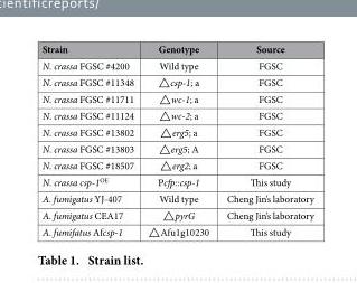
<table><thead><tr><td>Strain</td><td>Genotype</td><td>Source</td></tr></thead><tbody><tr><td>N. crassa FGSC #4200</td><td>Wild type</td><td>FGSC</td></tr><tr><td>N. crassa FGSC #11348</td><td>△ csp-1; a</td><td>FGSC</td></tr><tr><td>N. crassa FGSC #11711</td><td>△ wc-1; a</td><td>FGSC</td></tr><tr><td>N. crassa FGSC #11124</td><td>△ wc-2; a</td><td>FGSC</td></tr><tr><td>N. crassa FGSC #13802</td><td>△ erg5; a</td><td>FGSC</td></tr><tr><td>N. crassa FGSC #13803</td><td>△ erg5; A</td><td>FGSC</td></tr><tr><td>N. crassa FGSC #18507</td><td>△ erg2; a</td><td>FGSC</td></tr><tr><td>N. crassa csp-1<sup>OE</sup></td><td>Pcfp::csp-1</td><td>This study</td></tr><tr><td>A. fumigatus YJ-407</td><td>Wild type</td><td>Cheng Jin’s laboratory</td></tr><tr><td>A. fumigatus CEA17</td><td>△ pyrG</td><td>Cheng Jin’s laboratory</td></tr><tr><td>A. fumifatus Afcsp-1</td><td>△ Afu1g10230</td><td>This study</td></tr></tbody></table>